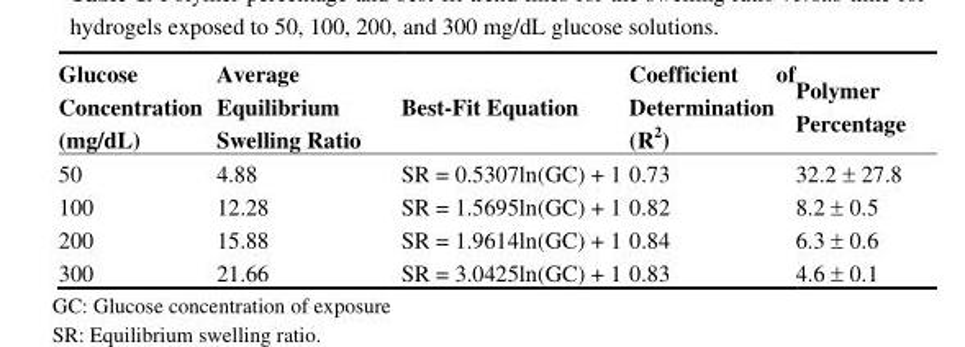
<table><thead><tr><td>Glucose Concentration (mg/dL)</td><td>Average Equilibrium Swelling Ratio</td><td>Best-Fit Equation</td><td>Coefficient of Determination (R<sup>2</sup>)</td><td>Polymer Percentage</td></tr></thead><tbody><tr><td>50</td><td>4.88</td><td>SR = 0.5307ln(GC) + 1</td><td>0.73</td><td>32.2 ± 27.8</td></tr><tr><td>100</td><td>12.28</td><td>SR = 1.5695ln(GC) + 1</td><td>0.82</td><td>8.2 ± 0.5</td></tr><tr><td>200</td><td>15.88</td><td>SR = 1.9614ln(GC) + 1</td><td>0.84</td><td>6.3 ± 0.6</td></tr><tr><td>300</td><td>21.66</td><td>SR = 3.0425ln(GC) + 1</td><td>0.83</td><td>4.6 ± 0.1</td></tr></tbody></table>